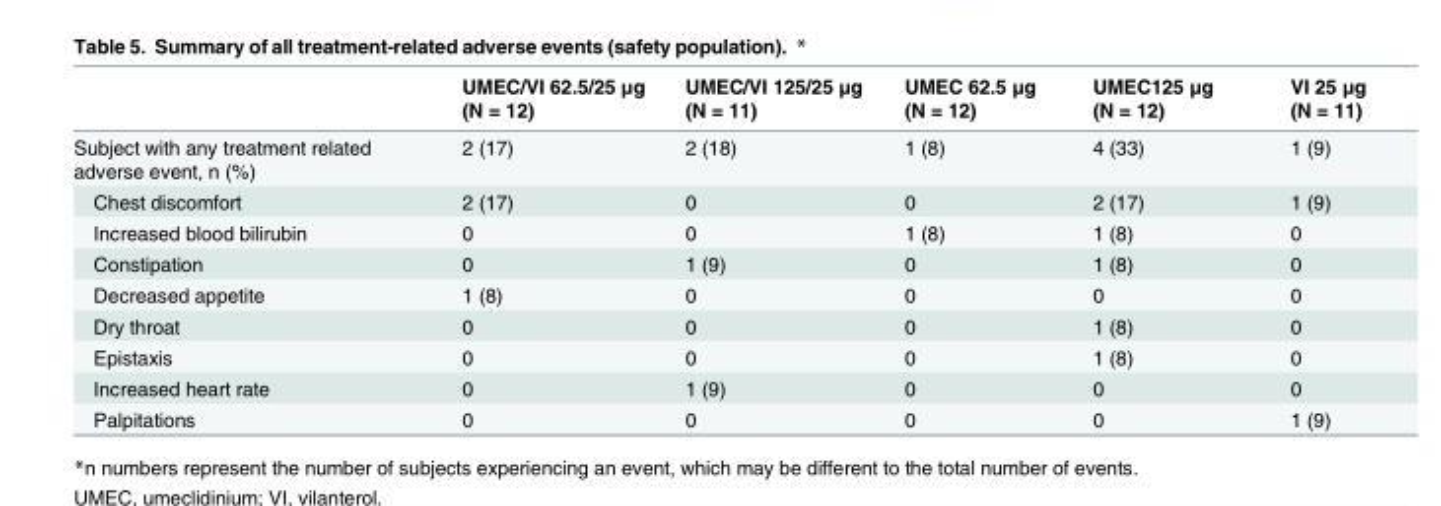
<table><thead><tr><td></td><td>UMEC/VI 62.5/25 μg (N = 12)</td><td>UMEC/VI 125/25 μg (N = 11)</td><td>UMEC 62.5 μg (N = 12)</td><td>UMEC125 μg (N = 12)</td><td>VI 25 μg (N = 11)</td></tr></thead><tbody><tr><td>Subject with any treatment related adverse event, n (%)</td><td>2 (17)</td><td>2 (18)</td><td>1 (8)</td><td>4 (33)</td><td>1 (9)</td></tr><tr><td>Chest discomfort</td><td>2 (17)</td><td>0</td><td>0</td><td>2 (17)</td><td>1 (9)</td></tr><tr><td>Increased blood bilirubin</td><td>0</td><td>0</td><td>1 (8)</td><td>1 (8)</td><td>0</td></tr><tr><td>Constipation</td><td>0</td><td>1 (9)</td><td>0</td><td>1 (8)</td><td>0</td></tr><tr><td>Decreased appetite</td><td>1 (8)</td><td>0</td><td>0</td><td>0</td><td>0</td></tr><tr><td>Dry throat</td><td>0</td><td>0</td><td>0</td><td>1 (8)</td><td>0</td></tr><tr><td>Epistaxis</td><td>0</td><td>0</td><td>0</td><td>1 (8)</td><td>0</td></tr><tr><td>Increased heart rate</td><td>0</td><td>1 (9)</td><td>0</td><td>0</td><td>0</td></tr><tr><td>Palpitations</td><td>0</td><td>0</td><td>0</td><td>0</td><td>1 (9)</td></tr></tbody></table>